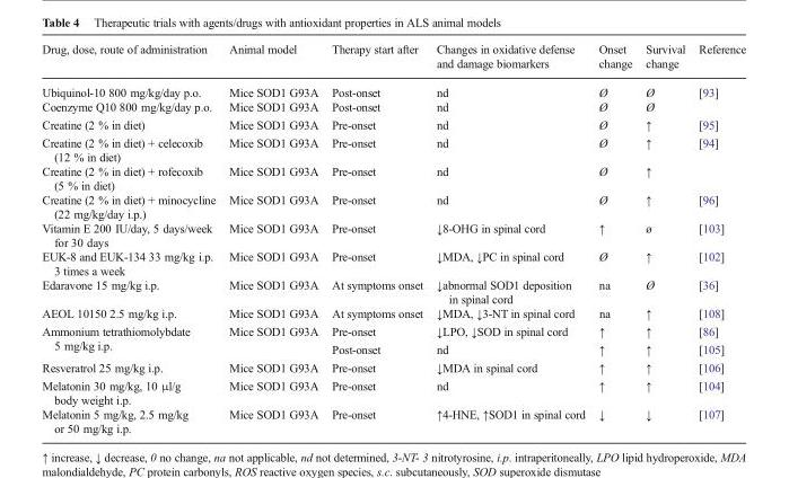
<table><thead><tr><td>Drug, dose, route of administration</td><td>Animal model</td><td>Therapy start after</td><td>Changes in oxidative defense and damage biomarkers</td><td>Onset change</td><td>Survival change</td><td>Reference</td></tr></thead><tbody><tr><td>Ubiquinol-10 800 mg/kg/day p.o.</td><td>Mice SOD1 G93A</td><td>Post-onset</td><td>nd</td><td>Ø</td><td>Ø</td><td rowspan="2">[93]</td></tr><tr><td>Coenzyme Q10 800 mg/kg/day p.o.</td><td>Mice SOD1 G93A</td><td>Post-onset</td><td>nd</td><td>Ø</td><td>Ø</td></tr><tr><td>Creatine (2 % in diet)</td><td>Mice SOD1 G93A</td><td>Pre-onset</td><td>nd</td><td>Ø</td><td>↑</td><td>[95]</td></tr><tr><td>Creatine (2 % in diet) + celecoxib (12 % in diet)</td><td>Mice SOD1 G93A</td><td>Pre-onset</td><td>nd</td><td>Ø</td><td>↑</td><td rowspan="2">[94]</td></tr><tr><td>Creatine (2 % in diet) + rofecoxib (5 % in diet)</td><td>Mice SOD1 G93A</td><td>Pre-onset</td><td>nd</td><td>Ø</td><td>↑</td></tr><tr><td>Creatine (2 % in diet) + minocycline (22 mg/kg/day i.p.)</td><td>Mice SOD1 G93A</td><td>Pre-onset</td><td>nd</td><td>Ø</td><td>↑</td><td>[96]</td></tr><tr><td>Vitamin E 200 IU/day, 5 days/week for 30 days</td><td>Mice SOD1 G93A</td><td>Pre-onset</td><td>↓8-OHG in spinal cord</td><td>↑</td><td>ø</td><td>[103]</td></tr><tr><td>EUK-8 and EUK-134 33 mg/kg i.p. 3 times a week</td><td>Mice SOD1 G93A</td><td>Pre-onset</td><td>↓MDA, ↓PC in spinal cord</td><td>Ø</td><td>↑</td><td>[102]</td></tr><tr><td>Edaravone 15 mg/kg i.p.</td><td>Mice SOD1 G93A</td><td>At symptoms onset</td><td>↓abnormal SOD1 deposition in spinal cord</td><td>na</td><td>Ø</td><td>[36]</td></tr><tr><td>AEOL 10150 2.5 mg/kg i.p.</td><td>Mice SOD1 G93A</td><td>At symptoms onset</td><td>↓MDA, ↓3-NT in spinal cord</td><td>na</td><td>↑</td><td>[108]</td></tr><tr><td rowspan="2">Ammonium tetrathiomolybdate 5 mg/kg i.p.</td><td rowspan="2">Mice SOD1 G93A</td><td>Pre-onset</td><td>↓LPO, ↓SOD in spinal cord</td><td>↑</td><td>↑</td><td>[86]</td></tr><tr><td>Post-onset</td><td>nd</td><td>↑</td><td>↑</td><td>[105]</td></tr><tr><td>Resveratrol 25 mg/kg i.p.</td><td>Mice SOD1 G93A</td><td>Pre-onset</td><td>↓MDA in spinal cord</td><td>↑</td><td>↑</td><td>[106]</td></tr><tr><td>Melatonin 30 mg/kg, 10 μl/g body weight i.p.</td><td>Mice SOD1 G93A</td><td>Pre-onset</td><td>nd</td><td>↑</td><td>↑</td><td>[104]</td></tr><tr><td>Melatonin 5 mg/kg, 2.5 mg/kg or 50 mg/kg i.p.</td><td>Mice SOD1 G93A</td><td>Pre-onset</td><td>↑4-HNE, ↑SOD1 in spinal cord</td><td>↓</td><td>↓</td><td>[107]</td></tr></tbody></table>